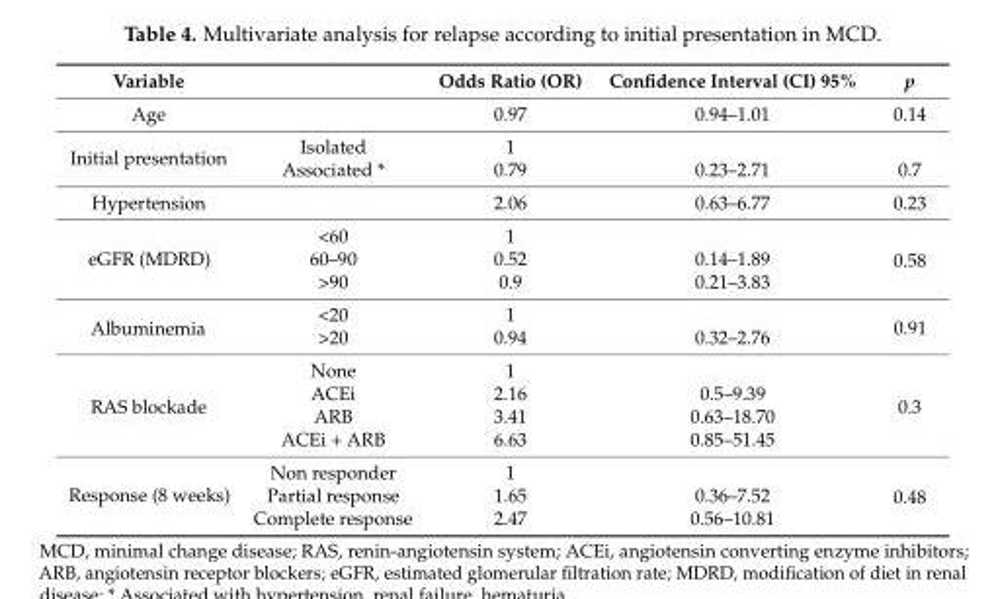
<table><thead><tr><td>Variable</td><td></td><td>Odds Ratio (OR)</td><td>Confidence Interval (CI) 95%</td><td>p</td></tr></thead><tbody><tr><td>Age</td><td></td><td>0.97</td><td>0.94–1.01</td><td>0.14</td></tr><tr><td rowspan="2">Initial presentation</td><td>Isolated</td><td>1</td><td></td><td></td></tr><tr><td>Associated *</td><td>0.79</td><td>0.23–2.71</td><td>0.7</td></tr><tr><td>Hypertension</td><td></td><td>2.06</td><td>0.63–6.77</td><td>0.23</td></tr><tr><td rowspan="3">eGFR (MDRD)</td><td>&lt;60</td><td>1</td><td></td><td rowspan="3">0.58</td></tr><tr><td>60–90</td><td>0.52</td><td>0.14–1.89</td></tr><tr><td>&gt;90</td><td>0.9</td><td>0.21–3.83</td></tr><tr><td rowspan="2">Albuminemia</td><td>&lt;20</td><td>1</td><td></td><td rowspan="2">0.91</td></tr><tr><td>&gt;20</td><td>0.94</td><td>0.32–2.76</td></tr><tr><td rowspan="4">RAS blockade</td><td>None</td><td>1</td><td></td><td rowspan="4">0.3</td></tr><tr><td>ACEi</td><td>2.16</td><td>0.5–9.39</td></tr><tr><td>ARB</td><td>3.41</td><td>0.63–18.70</td></tr><tr><td>ACEi + ARB</td><td>6.63</td><td>0.85–51.45</td></tr><tr><td rowspan="3">Response (8 weeks)</td><td>Non responder</td><td>1</td><td></td><td rowspan="3">0.48</td></tr><tr><td>Partial response</td><td>1.65</td><td>0.36–7.52</td></tr><tr><td>Complete response</td><td>2.47</td><td>0.56–10.81</td></tr></tbody></table>